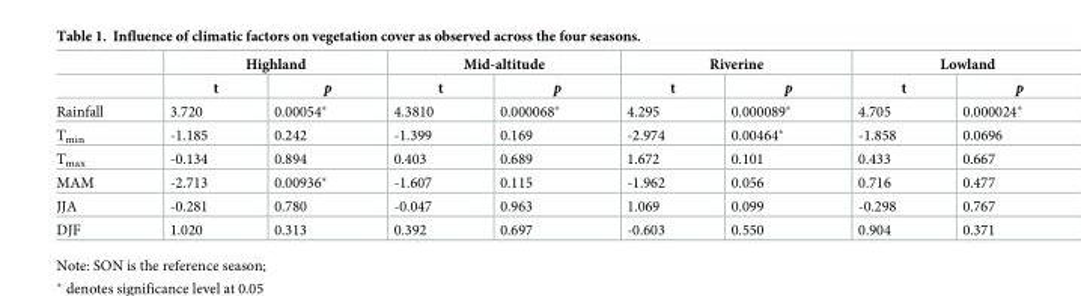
<table><thead><tr><td rowspan="2"></td><td colspan="2">Highland</td><td colspan="2">Mid-altitude</td><td colspan="2">Riverine</td><td colspan="2">Lowland</td></tr><tr><td>t</td><td>p</td><td>t</td><td>p</td><td>t</td><td>p</td><td>t</td><td>p</td></tr></thead><tbody><tr><td>Rainfall</td><td>3.720</td><td>0.00054*</td><td>4.3810</td><td>0.000068*</td><td>4.295</td><td>0.000089*</td><td>4.705</td><td>0.000024*</td></tr><tr><td>T<sub>min</sub></td><td>-1.185</td><td>0.242</td><td>-1.399</td><td>0.169</td><td>-2.974</td><td>0.00464*</td><td>-1.858</td><td>0.0696</td></tr><tr><td>T<sub>max</sub></td><td>-0.134</td><td>0.894</td><td>0.403</td><td>0.689</td><td>1.672</td><td>0.101</td><td>0.433</td><td>0.667</td></tr><tr><td>MAM</td><td>-2.713</td><td>0.00936*</td><td>-1.607</td><td>0.115</td><td>-1.962</td><td>0.056</td><td>0.716</td><td>0.477</td></tr><tr><td>JJA</td><td>-0.281</td><td>0.780</td><td>-0.047</td><td>0.963</td><td>1.069</td><td>0.099</td><td>-0.298</td><td>0.767</td></tr><tr><td>DJF</td><td>1.020</td><td>0.313</td><td>0.392</td><td>0.697</td><td>-0.603</td><td>0.550</td><td>0.904</td><td>0.371</td></tr></tbody></table>